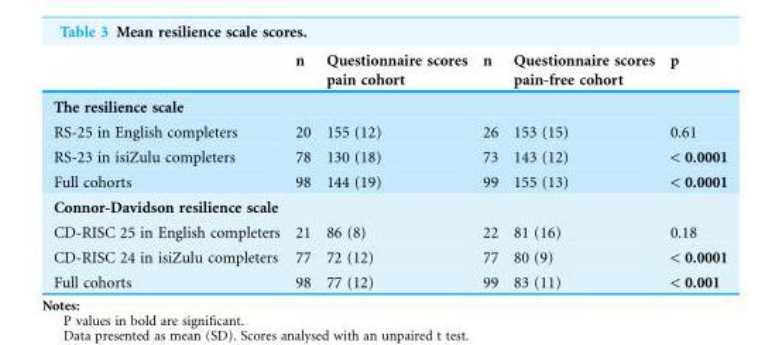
<table><thead><tr><td></td><td>n</td><td>Questionnaire scores pain cohort</td><td>n</td><td>Questionnaire scores pain-free cohort</td><td>p</td></tr></thead><tbody><tr><td colspan="6">The resilience scale</td></tr><tr><td>RS-25 in English completers</td><td>20</td><td>155 (12)</td><td>26</td><td>153 (15)</td><td>0.61</td></tr><tr><td>RS-23 in isiZulu completers</td><td>78</td><td>130 (18)</td><td>73</td><td>143 (12)</td><td>&lt; 0.0001</td></tr><tr><td>Full cohorts</td><td>98</td><td>144 (19)</td><td>99</td><td>155 (13)</td><td>&lt; 0.0001</td></tr><tr><td colspan="6">Connor-Davidson resilience scale</td></tr><tr><td>CD-RISC 25 in English completers</td><td>21</td><td>86 (8)</td><td>22</td><td>81 (16)</td><td>0.18</td></tr><tr><td>CD-RISC 24 in isiZulu completers</td><td>77</td><td>72 (12)</td><td>77</td><td>80 (9)</td><td>&lt; 0.0001</td></tr><tr><td>Full cohorts</td><td>98</td><td>77 (12)</td><td>99</td><td>83 (11)</td><td>&lt; 0.001</td></tr></tbody></table>